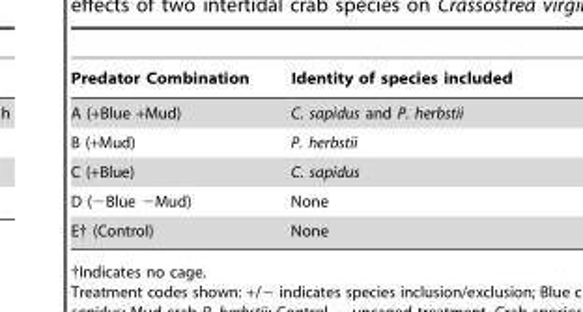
<table><thead><tr><td>Predator Combination</td><td>Identity of species included</td></tr></thead><tbody><tr><td>A (+Blue +Mud)</td><td>C. sapidus and P. herbstii</td></tr><tr><td>B (+Mud)</td><td>P. herbstii</td></tr><tr><td>C (+Blue)</td><td>C. sapidus</td></tr><tr><td>D (−Blue −Mud)</td><td>None</td></tr><tr><td>E† (Control)</td><td>None</td></tr></tbody></table>